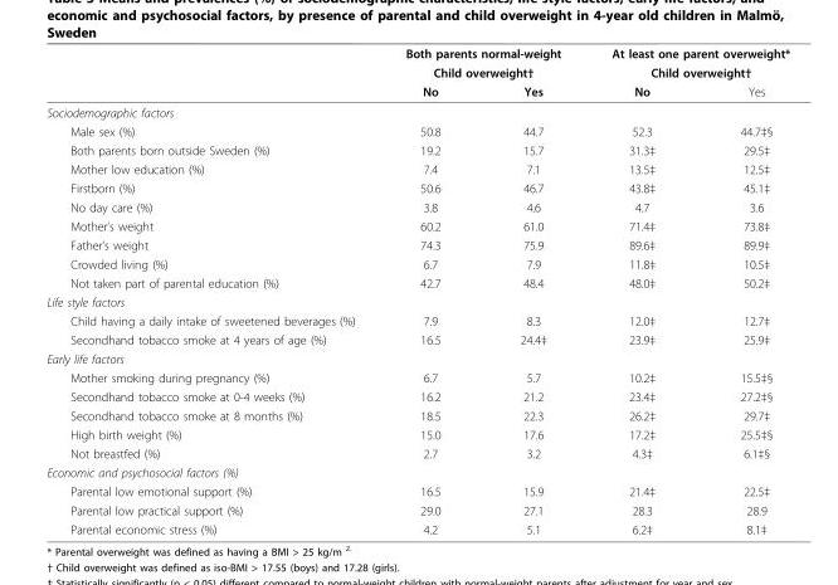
<table><thead><tr><td rowspan="3"></td><td rowspan="2" colspan="2">Both parents normal-weight Child overweight†</td><td rowspan="2" colspan="2">At least one parent overweight* Child overweight†</td></tr><tr></tr><tr><td>No</td><td>Yes</td><td>No</td><td>Yes</td></tr></thead><tbody><tr><td colspan="5">Sociodemographic factors</td></tr><tr><td>Male sex (%)</td><td>50.8</td><td>44.7</td><td>52.3</td><td>44.7‡§</td></tr><tr><td>Both parents born outside Sweden (%)</td><td>19.2</td><td>15.7</td><td>31.3‡</td><td>29.5‡</td></tr><tr><td>Mother low education (%)</td><td>7.4</td><td>7.1</td><td>13.5‡</td><td>12.5‡</td></tr><tr><td>Firstborn (%)</td><td>50.6</td><td>46.7</td><td>43.8‡</td><td>45.1‡</td></tr><tr><td>No day care (%)</td><td>3.8</td><td>4.6</td><td>4.7</td><td>3.6</td></tr><tr><td>Mother’s weight</td><td>60.2</td><td>61.0</td><td>71.4‡</td><td>73.8‡</td></tr><tr><td>Father’s weight</td><td>74.3</td><td>75.9</td><td>89.6‡</td><td>89.9‡</td></tr><tr><td>Crowded living (%)</td><td>6.7</td><td>7.9</td><td>11.8‡</td><td>10.5‡</td></tr><tr><td>Not taken part of parental education (%)</td><td>42.7</td><td>48.4</td><td>48.0‡</td><td>50.2‡</td></tr><tr><td colspan="5">Life style factors</td></tr><tr><td>Child having a daily intake of sweetened beverages (%)</td><td>7.9</td><td>8.3</td><td>12.0‡</td><td>12.7‡</td></tr><tr><td>Secondhand tobacco smoke at 4 years of age (%)</td><td>16.5</td><td>24.4‡</td><td>23.9‡</td><td>25.9‡</td></tr><tr><td colspan="5">Early life factors</td></tr><tr><td>Mother smoking during pregnancy (%)</td><td>6.7</td><td>5.7</td><td>10.2‡</td><td>15.5‡§</td></tr><tr><td>Secondhand tobacco smoke at 0-4 weeks (%)</td><td>16.2</td><td>21.2</td><td>23.4‡</td><td>27.2‡§</td></tr><tr><td>Secondhand tobacco smoke at 8 months (%)</td><td>18.5</td><td>22.3</td><td>26.2‡</td><td>29.7‡</td></tr><tr><td>High birth weight (%)</td><td>15.0</td><td>17.6</td><td>17.2‡</td><td>25.5‡§</td></tr><tr><td>Not breastfed (%)</td><td>2.7</td><td>3.2</td><td>4.3‡</td><td>6.1‡§</td></tr><tr><td colspan="5">Economic and psychosocial factors (%)</td></tr><tr><td>Parental low emotional support (%)</td><td>16.5</td><td>15.9</td><td>21.4‡</td><td>22.5‡</td></tr><tr><td>Parental low practical support (%)</td><td>29.0</td><td>27.1</td><td>28.3</td><td>28.9</td></tr><tr><td>Parental economic stress (%)</td><td>4.2</td><td>5.1</td><td>6.2‡</td><td>8.1‡</td></tr></tbody></table>